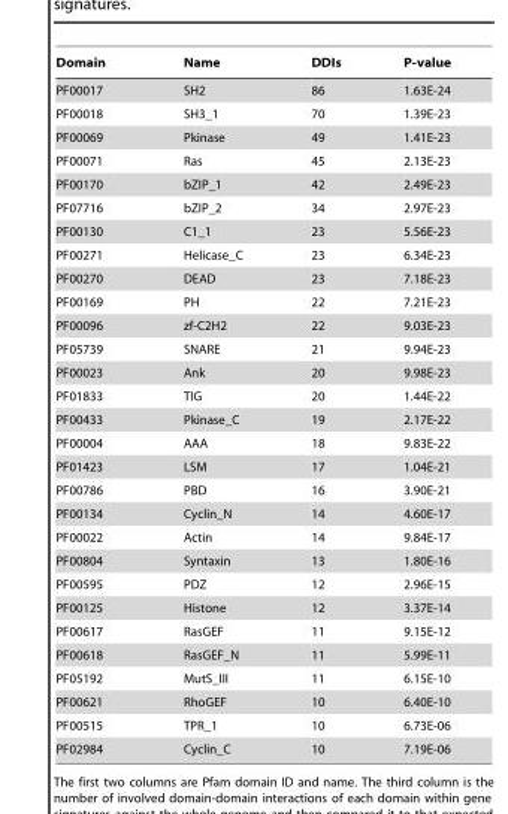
<table><thead><tr><td>Domain</td><td>Name</td><td>DDIs</td><td>P-value</td></tr></thead><tbody><tr><td>PF00017</td><td>SH2</td><td>86</td><td>1.63E-24</td></tr><tr><td>PF00018</td><td>SH3_1</td><td>70</td><td>1.39E-23</td></tr><tr><td>PF00069</td><td>Pkinase</td><td>49</td><td>1.41E-23</td></tr><tr><td>PF00071</td><td>Ras</td><td>45</td><td>2.13E-23</td></tr><tr><td>PF00170</td><td>bZIP_1</td><td>42</td><td>2.49E-23</td></tr><tr><td>PF07716</td><td>bZIP_2</td><td>34</td><td>2.97E-23</td></tr><tr><td>PF00130</td><td>C1_1</td><td>23</td><td>5.56E-23</td></tr><tr><td>PF00271</td><td>Helicase_C</td><td>23</td><td>6.34E-23</td></tr><tr><td>PF00270</td><td>DEAD</td><td>23</td><td>7.18E-23</td></tr><tr><td>PF00169</td><td>PH</td><td>22</td><td>7.21E-23</td></tr><tr><td>PF00096</td><td>zf-C2H2</td><td>22</td><td>9.03E-23</td></tr><tr><td>PF05739</td><td>SNARE</td><td>21</td><td>9.94E-23</td></tr><tr><td>PF00023</td><td>Ank</td><td>20</td><td>9.98E-23</td></tr><tr><td>PF01833</td><td>TIG</td><td>20</td><td>1.44E-22</td></tr><tr><td>PF00433</td><td>Pkinase_C</td><td>19</td><td>2.17E-22</td></tr><tr><td>PF00004</td><td>AAA</td><td>18</td><td>9.83E-22</td></tr><tr><td>PF01423</td><td>LSM</td><td>17</td><td>1.04E-21</td></tr><tr><td>PF00786</td><td>PBD</td><td>16</td><td>3.90E-21</td></tr><tr><td>PF00134</td><td>Cyclin_N</td><td>14</td><td>4.60E-17</td></tr><tr><td>PF00022</td><td>Actin</td><td>14</td><td>9.84E-17</td></tr><tr><td>PF00804</td><td>Syntaxin</td><td>13</td><td>1.80E-16</td></tr><tr><td>PF00595</td><td>PDZ</td><td>12</td><td>2.96E-15</td></tr><tr><td>PF00125</td><td>Histone</td><td>12</td><td>3.37E-14</td></tr><tr><td>PF00617</td><td>RasGEF</td><td>11</td><td>9.15E-12</td></tr><tr><td>PF00618</td><td>RasGEF_N</td><td>11</td><td>5.99E-11</td></tr><tr><td>PF05192</td><td>MutS_III</td><td>11</td><td>6.15E-10</td></tr><tr><td>PF00621</td><td>RhoGEF</td><td>10</td><td>6.40E-10</td></tr><tr><td>PF00515</td><td>TPR_1</td><td>10</td><td>6.73E-06</td></tr><tr><td>PF02984</td><td>Cyclin_C</td><td>10</td><td>7.19E-06</td></tr></tbody></table>